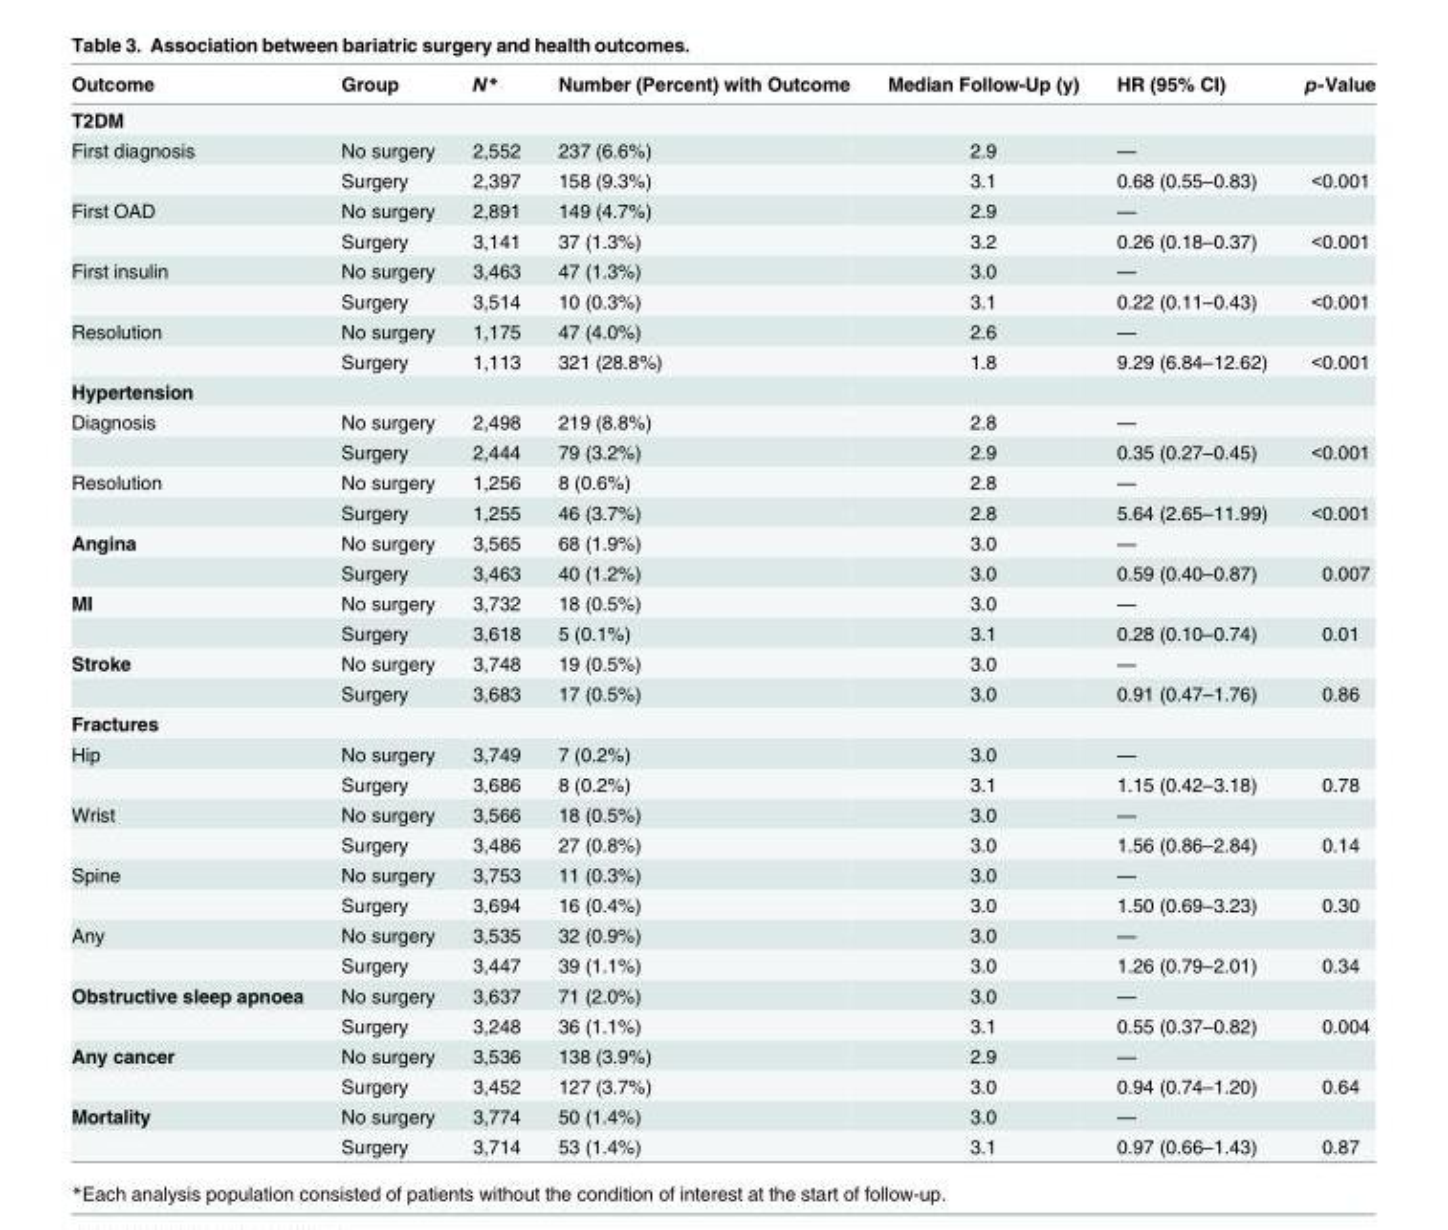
<table><thead><tr><td>Outcome</td><td>Group</td><td>N*</td><td>Number (Percent) with Outcome</td><td>Median Follow-Up (y)</td><td>HR (95% CI)</td><td>p-Value</td></tr></thead><tbody><tr><td colspan="7">T2DM</td></tr><tr><td rowspan="2">First diagnosis</td><td>No surgery</td><td>2,552</td><td>237 (6.6%)</td><td>2.9</td><td>—</td><td></td></tr><tr><td>Surgery</td><td>2,397</td><td>158 (9.3%)</td><td>3.1</td><td>0.68 (0.55–0.83)</td><td>&lt;0.001</td></tr><tr><td rowspan="2">First OAD</td><td>No surgery</td><td>2,891</td><td>149 (4.7%)</td><td>2.9</td><td>—</td><td></td></tr><tr><td>Surgery</td><td>3,141</td><td>37 (1.3%)</td><td>3.2</td><td>0.26 (0.18–0.37)</td><td>&lt;0.001</td></tr><tr><td rowspan="2">First insulin</td><td>No surgery</td><td>3,463</td><td>47 (1.3%)</td><td>3.0</td><td>—</td><td></td></tr><tr><td>Surgery</td><td>3,514</td><td>10 (0.3%)</td><td>3.1</td><td>0.22 (0.11–0.43)</td><td>&lt;0.001</td></tr><tr><td rowspan="2">Resolution</td><td>No surgery</td><td>1,175</td><td>47 (4.0%)</td><td>2.6</td><td>—</td><td></td></tr><tr><td>Surgery</td><td>1,113</td><td>321 (28.8%)</td><td>1.8</td><td>9.29 (6.84–12.62)</td><td>&lt;0.001</td></tr><tr><td colspan="7">Hypertension</td></tr><tr><td rowspan="2">Diagnosis</td><td>No surgery</td><td>2,498</td><td>219 (8.8%)</td><td>2.8</td><td>—</td><td></td></tr><tr><td>Surgery</td><td>2,444</td><td>79 (3.2%)</td><td>2.9</td><td>0.35 (0.27–0.45)</td><td>&lt;0.001</td></tr><tr><td rowspan="2">Resolution</td><td>No surgery</td><td>1,256</td><td>8 (0.6%)</td><td>2.8</td><td>—</td><td></td></tr><tr><td>Surgery</td><td>1,255</td><td>46 (3.7%)</td><td>2.8</td><td>5.64 (2.65–11.99)</td><td>&lt;0.001</td></tr><tr><td rowspan="2">Angina</td><td>No surgery</td><td>3,565</td><td>68 (1.9%)</td><td>3.0</td><td>—</td><td></td></tr><tr><td>Surgery</td><td>3,463</td><td>40 (1.2%)</td><td>3.0</td><td>0.59 (0.40–0.87)</td><td>0.007</td></tr><tr><td rowspan="2">MI</td><td>No surgery</td><td>3,732</td><td>18 (0.5%)</td><td>3.0</td><td>—</td><td></td></tr><tr><td>Surgery</td><td>3,618</td><td>5 (0.1%)</td><td>3.1</td><td>0.28 (0.10–0.74)</td><td>0.01</td></tr><tr><td rowspan="2">Stroke</td><td>No surgery</td><td>3,748</td><td>19 (0.5%)</td><td>3.0</td><td>—</td><td></td></tr><tr><td>Surgery</td><td>3,683</td><td>17 (0.5%)</td><td>3.0</td><td>0.91 (0.47–1.76)</td><td>0.86</td></tr><tr><td colspan="7">Fractures</td></tr><tr><td rowspan="2">Hip</td><td>No surgery</td><td>3,749</td><td>7 (0.2%)</td><td>3.0</td><td>—</td><td></td></tr><tr><td>Surgery</td><td>3,686</td><td>8 (0.2%)</td><td>3.1</td><td>1.15 (0.42–3.18)</td><td>0.78</td></tr><tr><td rowspan="2">Wrist</td><td>No surgery</td><td>3,566</td><td>18 (0.5%)</td><td>3.0</td><td>—</td><td></td></tr><tr><td>Surgery</td><td>3,486</td><td>27 (0.8%)</td><td>3.0</td><td>1.56 (0.86–2.84)</td><td>0.14</td></tr><tr><td rowspan="2">Spine</td><td>No surgery</td><td>3,753</td><td>11 (0.3%)</td><td>3.0</td><td>—</td><td></td></tr><tr><td>Surgery</td><td>3,694</td><td>16 (0.4%)</td><td>3.0</td><td>1.50 (0.69–3.23)</td><td>0.30</td></tr><tr><td rowspan="2">Any</td><td>No surgery</td><td>3,535</td><td>32 (0.9%)</td><td>3.0</td><td>—</td><td></td></tr><tr><td>Surgery</td><td>3,447</td><td>39 (1.1%)</td><td>3.0</td><td>1.26 (0.79–2.01)</td><td>0.34</td></tr><tr><td rowspan="2">Obstructive sleep apnoea</td><td>No surgery</td><td>3,637</td><td>71 (2.0%)</td><td>3.0</td><td>—</td><td></td></tr><tr><td>Surgery</td><td>3,248</td><td>36 (1.1%)</td><td>3.1</td><td>0.55 (0.37–0.82)</td><td>0.004</td></tr><tr><td rowspan="2">Any cancer</td><td>No surgery</td><td>3,536</td><td>138 (3.9%)</td><td>2.9</td><td>—</td><td></td></tr><tr><td>Surgery</td><td>3,452</td><td>127 (3.7%)</td><td>3.0</td><td>0.94 (0.74–1.20)</td><td>0.64</td></tr><tr><td rowspan="2">Mortality</td><td>No surgery</td><td>3,774</td><td>50 (1.4%)</td><td>3.0</td><td>—</td><td></td></tr><tr><td>Surgery</td><td>3,714</td><td>53 (1.4%)</td><td>3.1</td><td>0.97 (0.66–1.43)</td><td>0.87</td></tr></tbody></table>